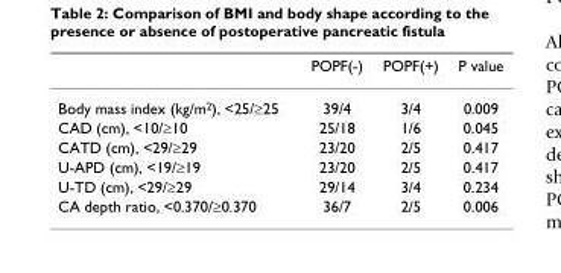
<table><thead><tr><td></td><td>POPF(-)</td><td>POPF(+)</td><td>P value</td></tr></thead><tbody><tr><td>Body mass index (kg/m<sup>2</sup>), &lt;25/≥25</td><td>39/4</td><td>3/4</td><td>0.009</td></tr><tr><td>CAD (cm), &lt;10/≥10</td><td>25/18</td><td>1/6</td><td>0.045</td></tr><tr><td>CATD (cm), &lt;29/≥29</td><td>23/20</td><td>2/5</td><td>0.417</td></tr><tr><td>U-APD (cm), &lt;19/≥19</td><td>23/20</td><td>2/5</td><td>0.417</td></tr><tr><td>U-TD (cm), &lt;29/≥29</td><td>29/14</td><td>3/4</td><td>0.234</td></tr><tr><td>CA depth ratio, &lt;0.370/≥0.370</td><td>36/7</td><td>2/5</td><td>0.006</td></tr></tbody></table>